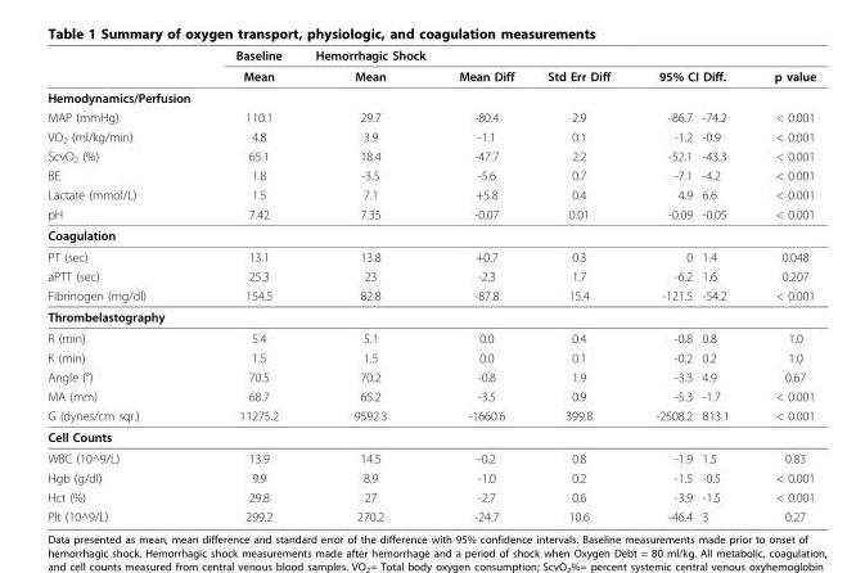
<table><thead><tr><td rowspan="2"></td><td rowspan="2">Baseline Mean</td><td rowspan="2">Hemorrhagic Shock Mean</td><td rowspan="2">Mean Diff</td><td rowspan="2">Std Err Diff</td><td></td><td></td><td rowspan="2">p value</td></tr><tr><td colspan="2">95% CI Diff.</td></tr></thead><tbody><tr><td colspan="8">Hemodynamics/Perfusion</td></tr><tr><td>MAP (mmHg)</td><td>110.1</td><td>29.7</td><td>-80.4</td><td>2.9</td><td>-86.7</td><td>-74.2</td><td>&lt; 0.001</td></tr><tr><td>VO<sub>2</sub> (ml/kg/min)</td><td>4.8</td><td>3.9</td><td>-1.1</td><td>0.1</td><td>-1.2</td><td>-0.9</td><td>&lt; 0.001</td></tr><tr><td>ScvO<sub>2</sub> (%)</td><td>65.1</td><td>18.4</td><td>-47.7</td><td>2.2</td><td>-52.1</td><td>-43.3</td><td>&lt; 0.001</td></tr><tr><td>BE</td><td>1.8</td><td>-3.5</td><td>-5.6</td><td>0.7</td><td>-7.1</td><td>-4.2</td><td>&lt; 0.001</td></tr><tr><td>Lactate (mmol/L)</td><td>1.5</td><td>7.1</td><td>+5.8</td><td>0.4</td><td>4.9</td><td>6.6</td><td>&lt; 0.001</td></tr><tr><td>pH</td><td>7.42</td><td>7.35</td><td>-0.07</td><td>0.01</td><td>-0.09</td><td>-0.05</td><td>&lt; 0.001</td></tr><tr><td colspan="8">Coagulation</td></tr><tr><td>PT (sec)</td><td>13.1</td><td>13.8</td><td>+0.7</td><td>0.3</td><td>0</td><td>1.4</td><td>0.048</td></tr><tr><td>aPTT (sec)</td><td>25.3</td><td>23</td><td>-2.3</td><td>1.7</td><td>-6.2</td><td>1.6</td><td>0.207</td></tr><tr><td>Fibrinogen (mg/dl)</td><td>154.5</td><td>82.8</td><td>-87.8</td><td>15.4</td><td>-121.5</td><td>-54.2</td><td>&lt; 0.001</td></tr><tr><td colspan="8">Thrombelastography</td></tr><tr><td>R (min)</td><td>5.4</td><td>5.1</td><td>0.0</td><td>0.4</td><td>-0.8</td><td>0.8</td><td>1.0</td></tr><tr><td>K (min)</td><td>1.5</td><td>1.5</td><td>0.0</td><td>0.1</td><td>-0.2</td><td>0.2</td><td>1.0</td></tr><tr><td>Angle (°)</td><td>70.5</td><td>70.2</td><td>-0.8</td><td>1.9</td><td>-3.3</td><td>4.9</td><td>0.67</td></tr><tr><td>MA (mm)</td><td>68.7</td><td>65.2</td><td>-3.5</td><td>0.9</td><td>-5.3</td><td>-1.7</td><td>&lt; 0.001</td></tr><tr><td>G (dynes/cm sqr.)</td><td>11275.2</td><td>9592.3</td><td>-1660.6</td><td>399.8</td><td>-2508.2</td><td>813.1</td><td>&lt; 0.001</td></tr><tr><td colspan="8">Cell Counts</td></tr><tr><td>WBC (10^9/L)</td><td>13.9</td><td>14.5</td><td>-0.2</td><td>0.8</td><td>-1.9</td><td>1.5</td><td>0.83</td></tr><tr><td>Hgb (g/dl)</td><td>9.9</td><td>8.9</td><td>-1.0</td><td>0.2</td><td>-1.5</td><td>-0.5</td><td>&lt; 0.001</td></tr><tr><td>Hct (%)</td><td>29.8</td><td>27</td><td>-2.7</td><td>0.6</td><td>-3.9</td><td>-1.5</td><td>&lt; 0.001</td></tr><tr><td>Plt (10^9/L)</td><td>299.2</td><td>270.2</td><td>-24.7</td><td>10.6</td><td>-46.4</td><td>3</td><td>0.27</td></tr></tbody></table>